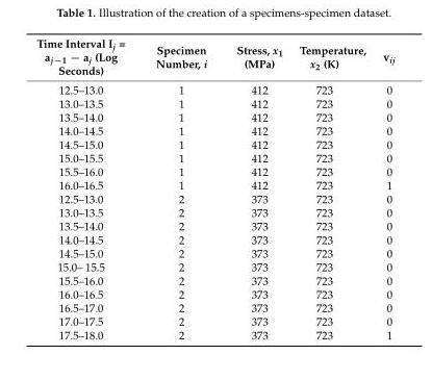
<table><thead><tr><td>Time Interval I<sub>j</sub> = a<sub>j−1</sub> − a<sub>j</sub> (Log Seconds)</td><td>Specimen Number, i</td><td>Stress, x<sub>1</sub> (MPa)</td><td>Temperature, x<sub>2</sub> (K)</td><td>v<sub>ij</sub></td></tr></thead><tbody><tr><td>12.5–13.0</td><td>1</td><td>412</td><td>723</td><td>0</td></tr><tr><td>13.0–13.5</td><td>1</td><td>412</td><td>723</td><td>0</td></tr><tr><td>13.5–14.0</td><td>1</td><td>412</td><td>723</td><td>0</td></tr><tr><td>14.0–14.5</td><td>1</td><td>412</td><td>723</td><td>0</td></tr><tr><td>14.5–15.0</td><td>1</td><td>412</td><td>723</td><td>0</td></tr><tr><td>15.0–15.5</td><td>1</td><td>412</td><td>723</td><td>0</td></tr><tr><td>15.5–16.0</td><td>1</td><td>412</td><td>723</td><td>0</td></tr><tr><td>16.0–16.5</td><td>1</td><td>412</td><td>723</td><td>1</td></tr><tr><td>12.5–13.0</td><td>2</td><td>373</td><td>723</td><td>0</td></tr><tr><td>13.0–13.5</td><td>2</td><td>373</td><td>723</td><td>0</td></tr><tr><td>13.5–14.0</td><td>2</td><td>373</td><td>723</td><td>0</td></tr><tr><td>14.0–14.5</td><td>2</td><td>373</td><td>723</td><td>0</td></tr><tr><td>14.5–15.0</td><td>2</td><td>373</td><td>723</td><td>0</td></tr><tr><td>15.0– 15.5</td><td>2</td><td>373</td><td>723</td><td>0</td></tr><tr><td>15.5–16.0</td><td>2</td><td>373</td><td>723</td><td>0</td></tr><tr><td>16.0–16.5</td><td>2</td><td>373</td><td>723</td><td>0</td></tr><tr><td>16.5–17.0</td><td>2</td><td>373</td><td>723</td><td>0</td></tr><tr><td>17.0–17.5</td><td>2</td><td>373</td><td>723</td><td>0</td></tr><tr><td>17.5–18.0</td><td>2</td><td>373</td><td>723</td><td>1</td></tr></tbody></table>